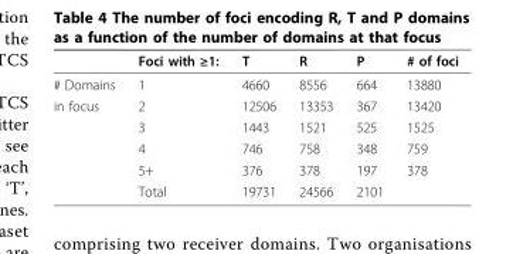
<table><thead><tr><td></td><td>Foci with ≥1:</td><td>T</td><td>R</td><td>P</td><td># of foci</td></tr></thead><tbody><tr><td># Domains</td><td>1</td><td>4660</td><td>8556</td><td>664</td><td>13880</td></tr><tr><td rowspan="5">in focus</td><td>2</td><td>12506</td><td>13353</td><td>367</td><td>13420</td></tr><tr><td>3</td><td>1443</td><td>1521</td><td>525</td><td>1525</td></tr><tr><td>4</td><td>746</td><td>758</td><td>348</td><td>759</td></tr><tr><td>5+</td><td>376</td><td>378</td><td>197</td><td>378</td></tr><tr><td>Total</td><td>19731</td><td>24566</td><td>2101</td><td></td></tr></tbody></table>